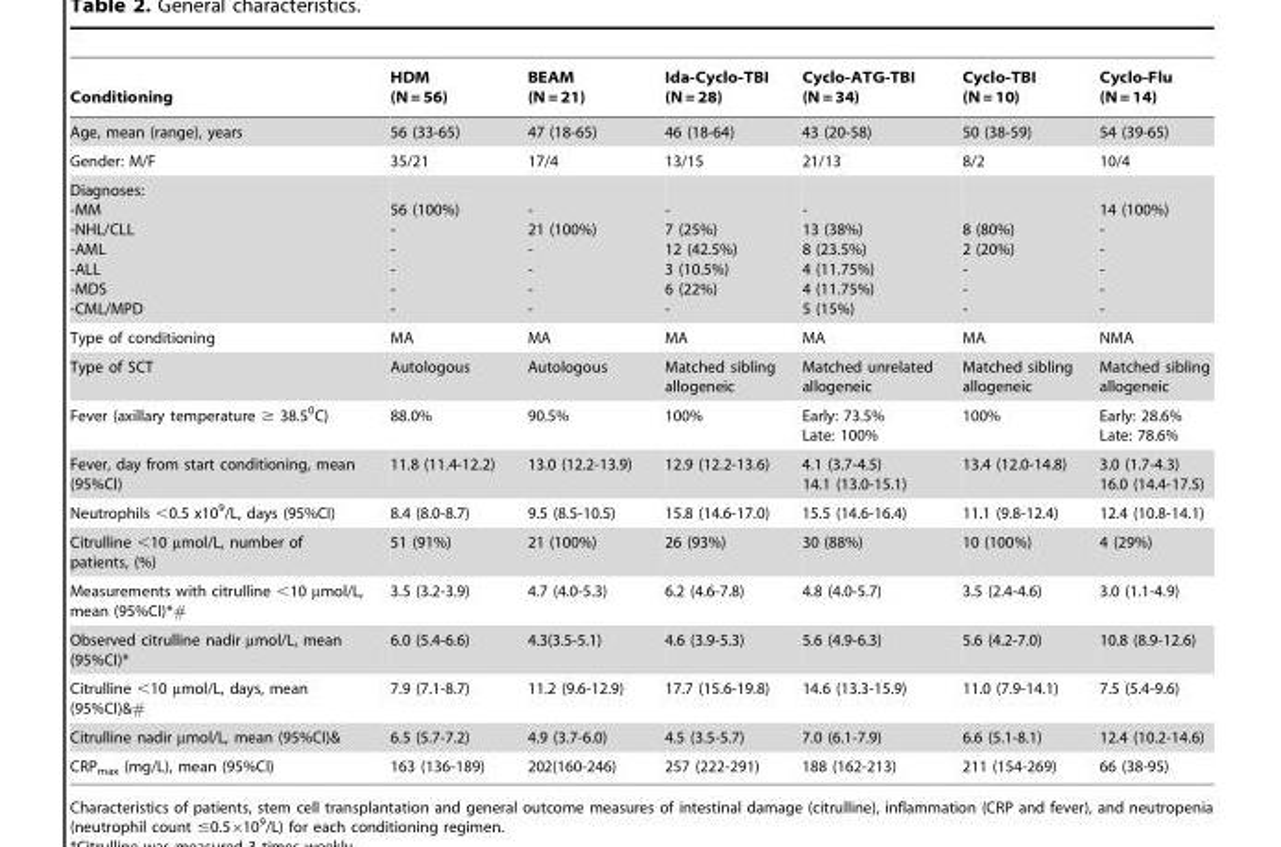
<table><thead><tr><td>Conditioning</td><td>HDM (N = 56)</td><td>BEAM (N = 21)</td><td>Ida-Cyclo-TBI (N = 28)</td><td>Cyclo-ATG-TBI (N = 34)</td><td>Cyclo-TBI (N = 10)</td><td>Cyclo-Flu (N = 14)</td></tr></thead><tbody><tr><td>Age, mean (range), years</td><td>56 (33-65)</td><td>47 (18-65)</td><td>46 (18-64)</td><td>43 (20-58)</td><td>50 (38-59)</td><td>54 (39-65)</td></tr><tr><td>Gender: M/F</td><td>35/21</td><td>17/4</td><td>13/15</td><td>21/13</td><td>8/2</td><td>10/4</td></tr><tr><td>Diagnoses: -MM -NHL/CLL -AML -ALL -MDS -CML/MPD</td><td>56 (100%) - - - - -</td><td>- 21 (100%) - - - -</td><td>- 7 (25%) 12 (42.5%) 3 (10.5%) 6 (22%) -</td><td>- 13 (38%) 8 (23.5%) 4 (11.75%) 4 (11.75%) 5 (15%)</td><td>8 (80%) 2 (20%) - - -</td><td>14 (100%) - - - - -</td></tr><tr><td>Type of conditioning</td><td>MA</td><td>MA</td><td>MA</td><td>MA</td><td>MA</td><td>NMA</td></tr><tr><td>Type of SCT</td><td>Autologous</td><td>Autologous</td><td>Matched sibling allogeneic</td><td>Matched unrelated allogeneic</td><td>Matched sibling allogeneic</td><td>Matched sibling allogeneic</td></tr><tr><td>Fever (axillary temperature ≥ 38.5<sup>0</sup>C)</td><td>88.0%</td><td>90.5%</td><td>100%</td><td>Early: 73.5% Late: 100%</td><td>100%</td><td>Early: 28.6% Late: 78.6%</td></tr><tr><td>Fever, day from start conditioning, mean (95%CI)</td><td>11.8 (11.4-12.2)</td><td>13.0 (12.2-13.9)</td><td>12.9 (12.2-13.6)</td><td>4.1 (3.7-4.5) 14.1 (13.0-15.1)</td><td>13.4 (12.0-14.8)</td><td>3.0 (1.7-4.3) 16.0 (14.4-17.5)</td></tr><tr><td>Neutrophils &lt;0.5 x10<sup>9</sup>/L, days (95%CI)</td><td>8.4 (8.0-8.7)</td><td>9.5 (8.5-10.5)</td><td>15.8 (14.6-17.0)</td><td>15.5 (14.6-16.4)</td><td>11.1 (9.8-12.4)</td><td>12.4 (10.8-14.1)</td></tr><tr><td>Citrulline &lt;10 µmol/L, number of patients, (%)</td><td>51 (91%)</td><td>21 (100%)</td><td>26 (93%)</td><td>30 (88%)</td><td>10 (100%)</td><td>4 (29%)</td></tr><tr><td>Measurements with citrulline &lt;10 µmol/L, mean (95%CI)*#</td><td>3.5 (3.2-3.9)</td><td>4.7 (4.0-5.3)</td><td>6.2 (4.6-7.8)</td><td>4.8 (4.0-5.7)</td><td>3.5 (2.4-4.6)</td><td>3.0 (1.1-4.9)</td></tr><tr><td>Observed citrulline nadir µmol/L, mean (95%CI)*</td><td>6.0 (5.4-6.6)</td><td>4.3(3.5-5.1)</td><td>4.6 (3.9-5.3)</td><td>5.6 (4.9-6.3)</td><td>5.6 (4.2-7.0)</td><td>10.8 (8.9-12.6)</td></tr><tr><td>Citrulline &lt;10 µmol/L, days, mean (95%CI)&amp;#</td><td>7.9 (7.1-8.7)</td><td>11.2 (9.6-12.9)</td><td>17.7 (15.6-19.8)</td><td>14.6 (13.3-15.9)</td><td>11.0 (7.9-14.1)</td><td>7.5 (5.4-9.6)</td></tr><tr><td>Citrulline nadir µmol/L, mean (95%CI)&amp;</td><td>6.5 (5.7-7.2)</td><td>4.9 (3.7-6.0)</td><td>4.5 (3.5-5.7)</td><td>7.0 (6.1-7.9)</td><td>6.6 (5.1-8.1)</td><td>12.4 (10.2-14.6)</td></tr><tr><td>CRP<sub>max</sub> (mg/L), mean (95%CI)</td><td>163 (136-189)</td><td>202(160-246)</td><td>257 (222-291)</td><td>188 (162-213)</td><td>211 (154-269)</td><td>66 (38-95)</td></tr></tbody></table>